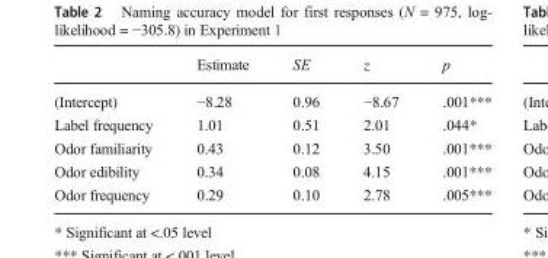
<table><thead><tr><td></td><td>Estimate</td><td>SE</td><td>z</td><td>p</td></tr></thead><tbody><tr><td>(Intercept)</td><td>−8.28</td><td>0.96</td><td>−8.67</td><td>.001***</td></tr><tr><td>Label frequency</td><td>1.01</td><td>0.51</td><td>2.01</td><td>.044*</td></tr><tr><td>Odor familiarity</td><td>0.43</td><td>0.12</td><td>3.50</td><td>.001***</td></tr><tr><td>Odor edibility</td><td>0.34</td><td>0.08</td><td>4.15</td><td>.001***</td></tr><tr><td>Odor frequency</td><td>0.29</td><td>0.10</td><td>2.78</td><td>.005***</td></tr></tbody></table>